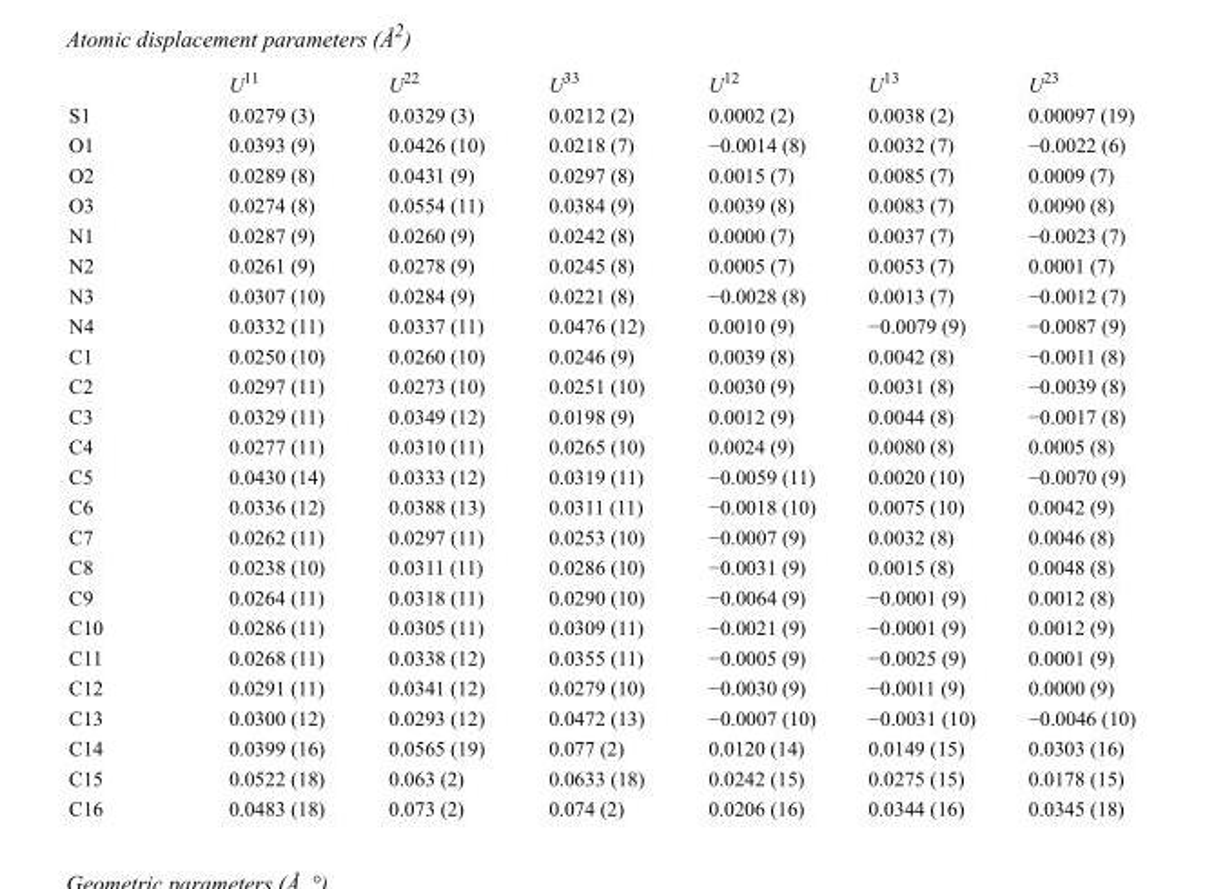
<table><thead><tr><td></td><td>U<sup>11</sup></td><td>U<sup>22</sup></td><td>U<sup>33</sup></td><td>U<sup>12</sup></td><td>U<sup>13</sup></td><td>U<sup>23</sup></td></tr></thead><tbody><tr><td>S1</td><td>0.0279 (3)</td><td>0.0329 (3)</td><td>0.0212 (2)</td><td>0.0002 (2)</td><td>0.0038 (2)</td><td>0.00097 (19)</td></tr><tr><td>O1</td><td>0.0393 (9)</td><td>0.0426 (10)</td><td>0.0218 (7)</td><td>−0.0014 (8)</td><td>0.0032 (7)</td><td>−0.0022 (6)</td></tr><tr><td>O2</td><td>0.0289 (8)</td><td>0.0431 (9)</td><td>0.0297 (8)</td><td>0.0015 (7)</td><td>0.0085 (7)</td><td>0.0009 (7)</td></tr><tr><td>O3</td><td>0.0274 (8)</td><td>0.0554 (11)</td><td>0.0384 (9)</td><td>0.0039 (8)</td><td>0.0083 (7)</td><td>0.0090 (8)</td></tr><tr><td>N1</td><td>0.0287 (9)</td><td>0.0260 (9)</td><td>0.0242 (8)</td><td>0.0000 (7)</td><td>0.0037 (7)</td><td>−0.0023 (7)</td></tr><tr><td>N2</td><td>0.0261 (9)</td><td>0.0278 (9)</td><td>0.0245 (8)</td><td>0.0005 (7)</td><td>0.0053 (7)</td><td>0.0001 (7)</td></tr><tr><td>N3</td><td>0.0307 (10)</td><td>0.0284 (9)</td><td>0.0221 (8)</td><td>−0.0028 (8)</td><td>0.0013 (7)</td><td>−0.0012 (7)</td></tr><tr><td>N4</td><td>0.0332 (11)</td><td>0.0337 (11)</td><td>0.0476 (12)</td><td>0.0010 (9)</td><td>−0.0079 (9)</td><td>−0.0087 (9)</td></tr><tr><td>C1</td><td>0.0250 (10)</td><td>0.0260 (10)</td><td>0.0246 (9)</td><td>0.0039 (8)</td><td>0.0042 (8)</td><td>−0.0011 (8)</td></tr><tr><td>C2</td><td>0.0297 (11)</td><td>0.0273 (10)</td><td>0.0251 (10)</td><td>0.0030 (9)</td><td>0.0031 (8)</td><td>−0.0039 (8)</td></tr><tr><td>C3</td><td>0.0329 (11)</td><td>0.0349 (12)</td><td>0.0198 (9)</td><td>0.0012 (9)</td><td>0.0044 (8)</td><td>−0.0017 (8)</td></tr><tr><td>C4</td><td>0.0277 (11)</td><td>0.0310 (11)</td><td>0.0265 (10)</td><td>0.0024 (9)</td><td>0.0080 (8)</td><td>0.0005 (8)</td></tr><tr><td>C5</td><td>0.0430 (14)</td><td>0.0333 (12)</td><td>0.0319 (11)</td><td>−0.0059 (11)</td><td>0.0020 (10)</td><td>−0.0070 (9)</td></tr><tr><td>C6</td><td>0.0336 (12)</td><td>0.0388 (13)</td><td>0.0311 (11)</td><td>−0.0018 (10)</td><td>0.0075 (10)</td><td>0.0042 (9)</td></tr><tr><td>C7</td><td>0.0262 (11)</td><td>0.0297 (11)</td><td>0.0253 (10)</td><td>−0.0007 (9)</td><td>0.0032 (8)</td><td>0.0046 (8)</td></tr><tr><td>C8</td><td>0.0238 (10)</td><td>0.0311 (11)</td><td>0.0286 (10)</td><td>−0.0031 (9)</td><td>0.0015 (8)</td><td>0.0048 (8)</td></tr><tr><td>C9</td><td>0.0264 (11)</td><td>0.0318 (11)</td><td>0.0290 (10)</td><td>−0.0064 (9)</td><td>−0.0001 (9)</td><td>0.0012 (8)</td></tr><tr><td>C10</td><td>0.0286 (11)</td><td>0.0305 (11)</td><td>0.0309 (11)</td><td>−0.0021 (9)</td><td>−0.0001 (9)</td><td>0.0012 (9)</td></tr><tr><td>C11</td><td>0.0268 (11)</td><td>0.0338 (12)</td><td>0.0355 (11)</td><td>−0.0005 (9)</td><td>−0.0025 (9)</td><td>0.0001 (9)</td></tr><tr><td>C12</td><td>0.0291 (11)</td><td>0.0341 (12)</td><td>0.0279 (10)</td><td>−0.0030 (9)</td><td>−0.0011 (9)</td><td>0.0000 (9)</td></tr><tr><td>C13</td><td>0.0300 (12)</td><td>0.0293 (12)</td><td>0.0472 (13)</td><td>−0.0007 (10)</td><td>−0.0031 (10)</td><td>−0.0046 (10)</td></tr><tr><td>C14</td><td>0.0399 (16)</td><td>0.0565 (19)</td><td>0.077 (2)</td><td>0.0120 (14)</td><td>0.0149 (15)</td><td>0.0303 (16)</td></tr><tr><td>C15</td><td>0.0522 (18)</td><td>0.063 (2)</td><td>0.0633 (18)</td><td>0.0242 (15)</td><td>0.0275 (15)</td><td>0.0178 (15)</td></tr><tr><td>C16</td><td>0.0483 (18)</td><td>0.073 (2)</td><td>0.074 (2)</td><td>0.0206 (16)</td><td>0.0344 (16)</td><td>0.0345 (18)</td></tr></tbody></table>